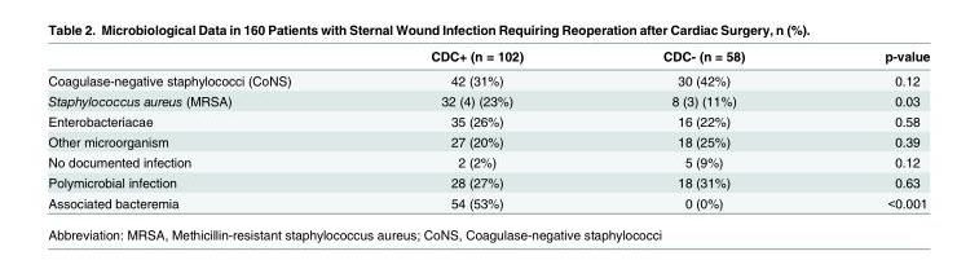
<table><thead><tr><td></td><td>CDC+ (n = 102)</td><td>CDC- (n = 58)</td><td>p-value</td></tr></thead><tbody><tr><td>Coagulase-negative staphylococci (CoNS)</td><td>42 (31%)</td><td>30 (42%)</td><td>0.12</td></tr><tr><td>Staphylococcus aureus (MRSA)</td><td>32 (4) (23%)</td><td>8 (3) (11%)</td><td>0.03</td></tr><tr><td>Enterobacteriacae</td><td>35 (26%)</td><td>16 (22%)</td><td>0.58</td></tr><tr><td>Other microorganism</td><td>27 (20%)</td><td>18 (25%)</td><td>0.39</td></tr><tr><td>No documented infection</td><td>2 (2%)</td><td>5 (9%)</td><td>0.12</td></tr><tr><td>Polymicrobial infection</td><td>28 (27%)</td><td>18 (31%)</td><td>0.63</td></tr><tr><td>Associated bacteremia</td><td>54 (53%)</td><td>0 (0%)</td><td>&lt;0.001</td></tr></tbody></table>